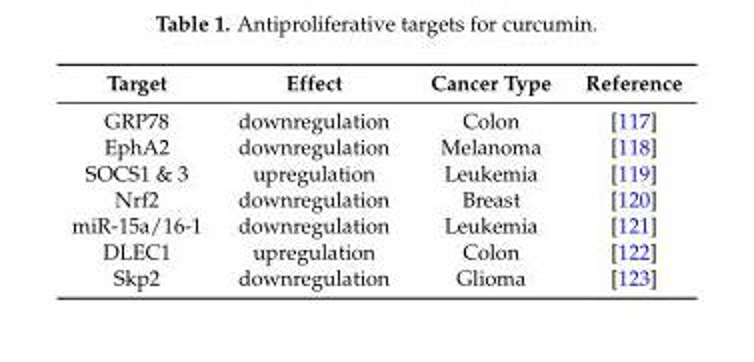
<table><thead><tr><td>Target</td><td>Effect</td><td>Cancer Type</td><td>Reference</td></tr></thead><tbody><tr><td>GRP78</td><td>downregulation</td><td>Colon</td><td>[117]</td></tr><tr><td>EphA2</td><td>downregulation</td><td>Melanoma</td><td>[118]</td></tr><tr><td>SOCS1 &amp; 3</td><td>upregulation</td><td>Leukemia</td><td>[119]</td></tr><tr><td>Nrf2</td><td>downregulation</td><td>Breast</td><td>[120]</td></tr><tr><td>miR-15a/16-1</td><td>downregulation</td><td>Leukemia</td><td>[121]</td></tr><tr><td>DLEC1</td><td>upregulation</td><td>Colon</td><td>[122]</td></tr><tr><td>Skp2</td><td>downregulation</td><td>Glioma</td><td>[123]</td></tr></tbody></table>